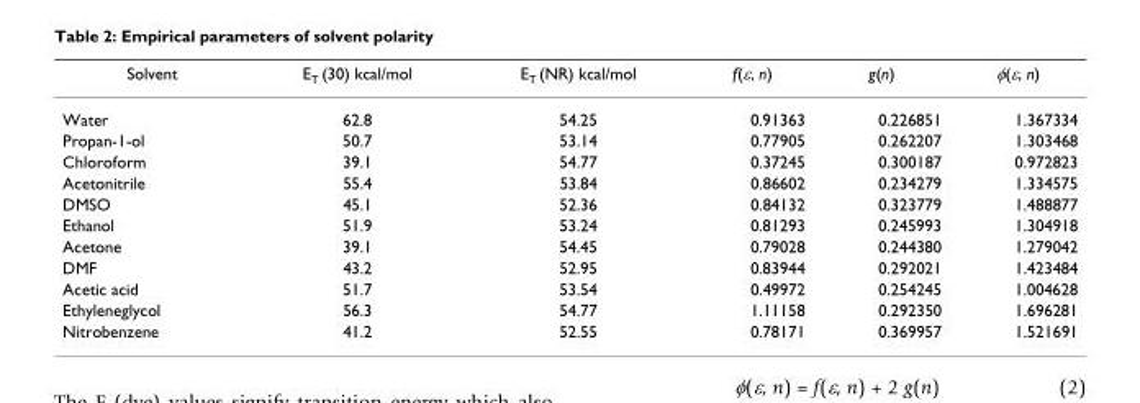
<table><thead><tr><td>Solvent</td><td>E<sub>T</sub> (30) kcal/mol</td><td>E<sub>T</sub> (NR) kcal/mol</td><td>f(ε, n)</td><td>g(n)</td><td>φ(ε, n)</td></tr></thead><tbody><tr><td>Water</td><td>62.8</td><td>54.25</td><td>0.91363</td><td>0.226851</td><td>1.367334</td></tr><tr><td>Propan-1-ol</td><td>50.7</td><td>53.14</td><td>0.77905</td><td>0.262207</td><td>1.303468</td></tr><tr><td>Chloroform</td><td>39.1</td><td>54.77</td><td>0.37245</td><td>0.300187</td><td>0.972823</td></tr><tr><td>Acetonitrile</td><td>55.4</td><td>53.84</td><td>0.86602</td><td>0.234279</td><td>1.334575</td></tr><tr><td>DMSO</td><td>45.1</td><td>52.36</td><td>0.84132</td><td>0.323779</td><td>1.488877</td></tr><tr><td>Ethanol</td><td>51.9</td><td>53.24</td><td>0.81293</td><td>0.245993</td><td>1.304918</td></tr><tr><td>Acetone</td><td>39.1</td><td>54.45</td><td>0.79028</td><td>0.244380</td><td>1.279042</td></tr><tr><td>DMF</td><td>43.2</td><td>52.95</td><td>0.83944</td><td>0.292021</td><td>1.423484</td></tr><tr><td>Acetic acid</td><td>51.7</td><td>53.54</td><td>0.49972</td><td>0.254245</td><td>1.004628</td></tr><tr><td>Ethyleneglycol</td><td>56.3</td><td>54.77</td><td>1.11158</td><td>0.292350</td><td>1.696281</td></tr><tr><td>Nitrobenzene</td><td>41.2</td><td>52.55</td><td>0.78171</td><td>0.369957</td><td>1.521691</td></tr></tbody></table>